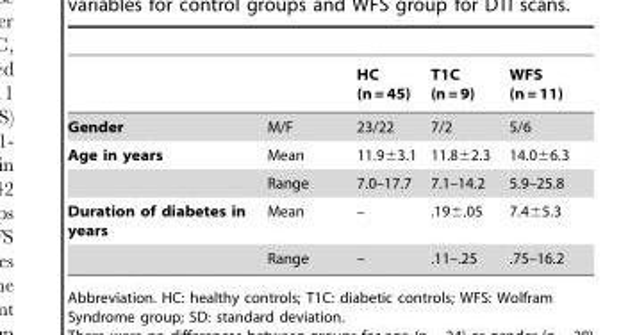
<table><thead><tr><td></td><td></td><td>HC (n = 45)</td><td>T1C (n = 9)</td><td>WFS (n = 11)</td></tr></thead><tbody><tr><td>Gender</td><td>M/F</td><td>23/22</td><td>7/2</td><td>5/6</td></tr><tr><td rowspan="2">Age in years</td><td>Mean</td><td>11.9±3.1</td><td>11.8±2.3</td><td>14.0±6.3</td></tr><tr><td>Range</td><td>7.0–17.7</td><td>7.1–14.2</td><td>5.9–25.8</td></tr><tr><td rowspan="2">Duration of diabetes in years</td><td>Mean</td><td>–</td><td>.19±.05</td><td>7.4±5.3</td></tr><tr><td>Range</td><td>–</td><td>.11–.25</td><td>.75–16.2</td></tr></tbody></table>